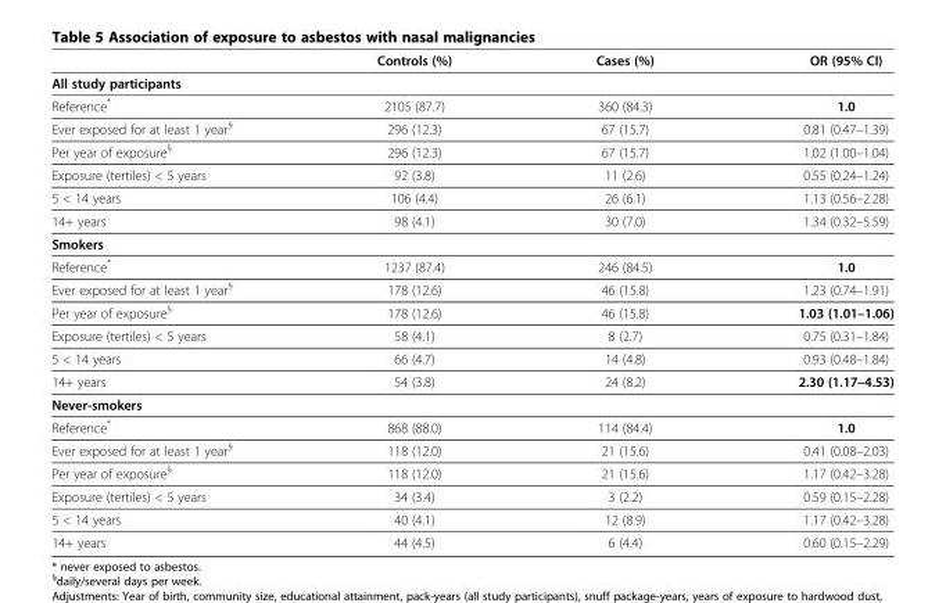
<table><thead><tr><td></td><td>Controls (%)</td><td>Cases (%)</td><td>OR (95% CI)</td></tr></thead><tbody><tr><td colspan="4">All study participants</td></tr><tr><td>Reference*</td><td>2105 (87.7)</td><td>360 (84.3)</td><td>1.0</td></tr><tr><td>Ever exposed for at least 1 year<sup>§</sup></td><td>296 (12.3)</td><td>67 (15.7)</td><td>0.81 (0.47–1.39)</td></tr><tr><td>Per year of exposure<sup>§</sup></td><td>296 (12.3)</td><td>67 (15.7)</td><td>1.02 (1.00–1.04)</td></tr><tr><td>Exposure (tertiles) &lt; 5 years</td><td>92 (3.8)</td><td>11 (2.6)</td><td>0.55 (0.24–1.24)</td></tr><tr><td>5 &lt; 14 years</td><td>106 (4.4)</td><td>26 (6.1)</td><td>1.13 (0.56–2.28)</td></tr><tr><td>14+ years</td><td>98 (4.1)</td><td>30 (7.0)</td><td>1.34 (0.32–5.59)</td></tr><tr><td colspan="4">Smokers</td></tr><tr><td>Reference*</td><td>1237 (87.4)</td><td>246 (84.5)</td><td>1.0</td></tr><tr><td>Ever exposed for at least 1 year<sup>§</sup></td><td>178 (12.6)</td><td>46 (15.8)</td><td>1.23 (0.74–1.91)</td></tr><tr><td>Per year of exposure<sup>§</sup></td><td>178 (12.6)</td><td>46 (15.8)</td><td>1.03 (1.01–1.06)</td></tr><tr><td>Exposure (tertiles) &lt; 5 years</td><td>58 (4.1)</td><td>8 (2.7)</td><td>0.75 (0.31–1.84)</td></tr><tr><td>5 &lt; 14 years</td><td>66 (4.7)</td><td>14 (4.8)</td><td>0.93 (0.48–1.84)</td></tr><tr><td>14+ years</td><td>54 (3.8)</td><td>24 (8.2)</td><td>2.30 (1.17–4.53)</td></tr><tr><td colspan="4">Never-smokers</td></tr><tr><td>Reference*</td><td>868 (88.0)</td><td>114 (84.4)</td><td>1.0</td></tr><tr><td>Ever exposed for at least 1 year<sup>§</sup></td><td>118 (12.0)</td><td>21 (15.6)</td><td>0.41 (0.08–2.03)</td></tr><tr><td>Per year of exposure<sup>§</sup></td><td>118 (12.0)</td><td>21 (15.6)</td><td>1.17 (0.42–3.28)</td></tr><tr><td>Exposure (tertiles) &lt; 5 years</td><td>34 (3.4)</td><td>3 (2.2)</td><td>0.59 (0.15–2.28)</td></tr><tr><td>5 &lt; 14 years</td><td>40 (4.1)</td><td>12 (8.9)</td><td>1.17 (0.42–3.28)</td></tr><tr><td>14+ years</td><td>44 (4.5)</td><td>6 (4.4)</td><td>0.60 (0.15–2.29)</td></tr></tbody></table>